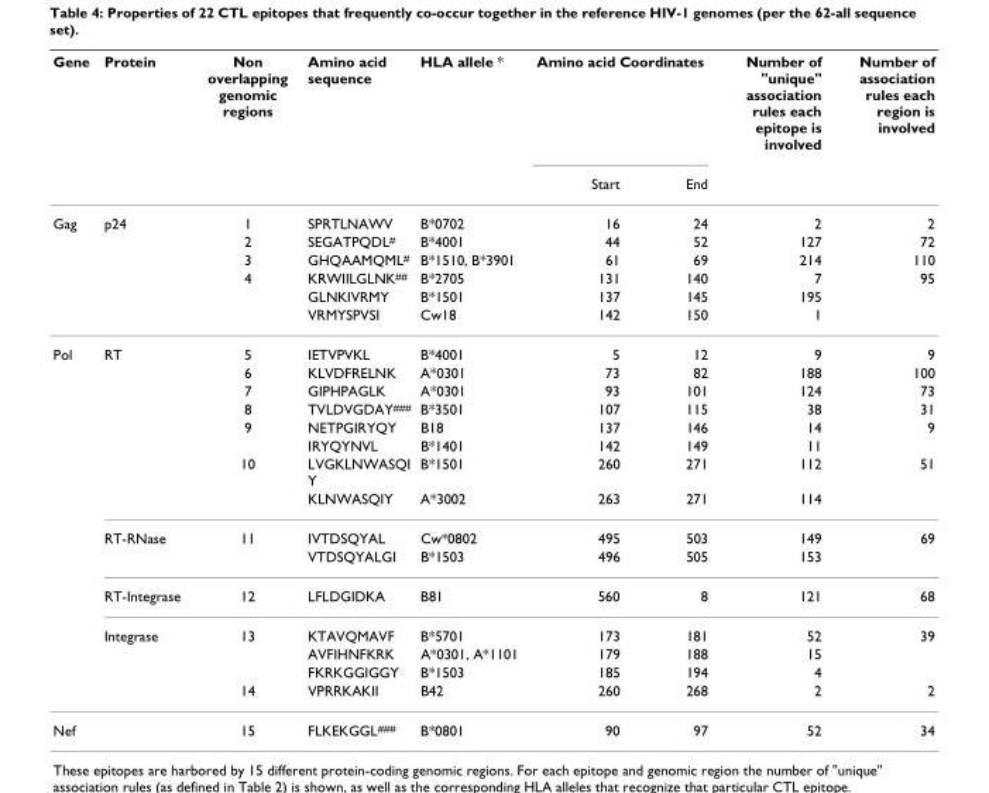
<table><thead><tr><td rowspan="2">Gene</td><td rowspan="2">Protein</td><td rowspan="2">Non overlapping genomic regions</td><td rowspan="2">Amino acid sequence</td><td rowspan="2">HLA allele *</td><td colspan="2">Amino acid Coordinates</td><td rowspan="2">Number of &quot;unique&quot; association rules each epitope is involved</td><td rowspan="2">Number of association rules each region is involved</td></tr><tr><td>Start</td><td>End</td></tr></thead><tbody><tr><td rowspan="6">Gag</td><td>p24</td><td>1</td><td>SPRTLNAWV</td><td>B*0702</td><td>16</td><td>24</td><td>2</td><td>2</td></tr><tr><td></td><td>2</td><td>SEGATPQDL<sup>#</sup></td><td>B*4001</td><td>44</td><td>52</td><td>127</td><td>72</td></tr><tr><td></td><td>3</td><td>GHQAAMQML<sup>#</sup></td><td>B*1510, B*3901</td><td>61</td><td>69</td><td>214</td><td>110</td></tr><tr><td></td><td>4</td><td>KRWIILGLNK<sup>##</sup></td><td>B*2705</td><td>131</td><td>140</td><td>7</td><td>95</td></tr><tr><td></td><td></td><td>GLNKIVRMY</td><td>B*1501</td><td>137</td><td>145</td><td>195</td><td></td></tr><tr><td></td><td></td><td>VRMYSPVSI</td><td>Cw18</td><td>142</td><td>150</td><td>1</td><td></td></tr><tr><td rowspan="15">Pol</td><td>RT</td><td>5</td><td>IETVPVKL</td><td>B*4001</td><td>5</td><td>12</td><td>9</td><td>9</td></tr><tr><td></td><td>6</td><td>KLVDFRELNK</td><td>A*0301</td><td>73</td><td>82</td><td>188</td><td>100</td></tr><tr><td></td><td>7</td><td>GIPHPAGLK</td><td>A*0301</td><td>93</td><td>101</td><td>124</td><td>73</td></tr><tr><td></td><td>8</td><td>TVLDVGDAY<sup>###</sup></td><td>B*3501</td><td>107</td><td>115</td><td>38</td><td>31</td></tr><tr><td></td><td>9</td><td>NETPGIRYQY</td><td>B18</td><td>137</td><td>146</td><td>14</td><td>9</td></tr><tr><td></td><td></td><td>IRYQYNVL</td><td>B*1401</td><td>142</td><td>149</td><td>11</td><td></td></tr><tr><td></td><td>10</td><td>LVGKLNWASQI Y</td><td>B*1501</td><td>260</td><td>271</td><td>112</td><td>51</td></tr><tr><td></td><td></td><td>KLNWASQIY</td><td>A*3002</td><td>263</td><td>271</td><td>114</td><td></td></tr><tr><td>RT-RNase</td><td>11</td><td>IVTDSQYAL</td><td>Cw*0802</td><td>495</td><td>503</td><td>149</td><td>69</td></tr><tr><td></td><td></td><td>VTDSQYALGI</td><td>B*1503</td><td>496</td><td>505</td><td>153</td><td></td></tr><tr><td>RT-Integrase</td><td>12</td><td>LFLDGIDKA</td><td>B81</td><td>560</td><td>8</td><td>121</td><td>68</td></tr><tr><td>Integrase</td><td>13</td><td>KTAVQMAVF</td><td>B*5701</td><td>173</td><td>181</td><td>52</td><td>39</td></tr><tr><td></td><td></td><td>AVFIHNFKRK</td><td>A*0301, A*1101</td><td>179</td><td>188</td><td>15</td><td></td></tr><tr><td></td><td></td><td>FKRKGGIGGY</td><td>B*1503</td><td>185</td><td>194</td><td>4</td><td></td></tr><tr><td></td><td>14</td><td>VPRRKAKII</td><td>B42</td><td>260</td><td>268</td><td>2</td><td>2</td></tr><tr><td>Nef</td><td></td><td>15</td><td>FLKEKGGL<sup>###</sup></td><td>B*0801</td><td>90</td><td>97</td><td>52</td><td>34</td></tr></tbody></table>